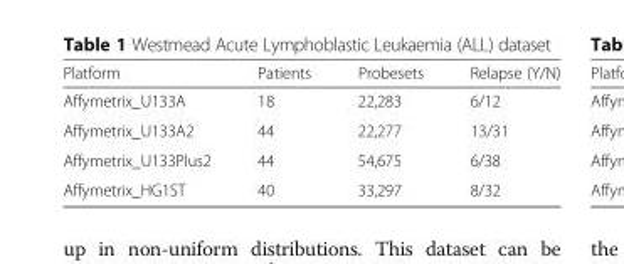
<table><thead><tr><td>Platform</td><td>Patients</td><td>Probesets</td><td>Relapse (Y/N)</td></tr></thead><tbody><tr><td>Affymetrix_U133A</td><td>18</td><td>22,283</td><td>6/12</td></tr><tr><td>Affymetrix_U133A2</td><td>44</td><td>22,277</td><td>13/31</td></tr><tr><td>Affymetrix_U133Plus2</td><td>44</td><td>54,675</td><td>6/38</td></tr><tr><td>Affymetrix_HG1ST</td><td>40</td><td>33,297</td><td>8/32</td></tr></tbody></table>